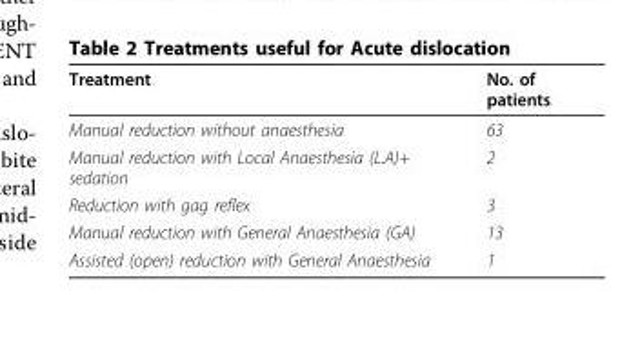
<table><thead><tr><td>Treatment</td><td>No. of patients</td></tr></thead><tbody><tr><td>Manual reduction without anaesthesia</td><td>63</td></tr><tr><td>Manual reduction with Local Anaesthesia (L.A)+ sedation</td><td>2</td></tr><tr><td>Reduction with gag reflex</td><td>3</td></tr><tr><td>Manual reduction with General Anaesthesia (GA)</td><td>13</td></tr><tr><td>Assisted (open) reduction with General Anaesthesia</td><td>1</td></tr></tbody></table>